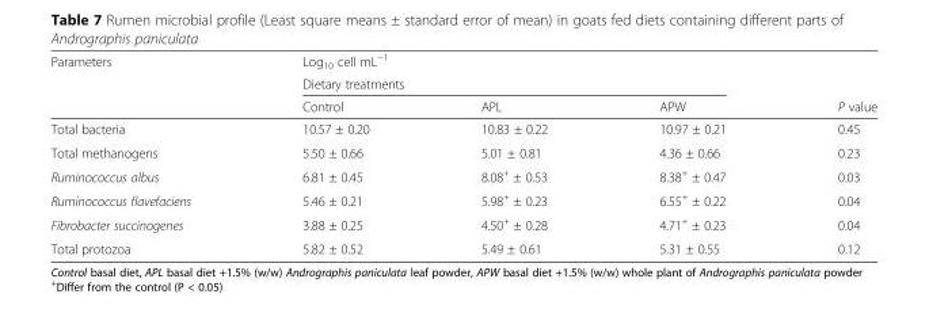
<table><thead><tr><td rowspan="3">Parameters</td><td rowspan="2" colspan="3">Log<sub>10</sub> cell mL<sup>−1</sup> Dietary treatments</td><td rowspan="3">P value</td></tr><tr></tr><tr><td>Control</td><td>APL</td><td>APW</td></tr></thead><tbody><tr><td>Total bacteria</td><td>10.57 ± 0.20</td><td>10.83 ± 0.22</td><td>10.97 ± 0.21</td><td>0.45</td></tr><tr><td>Total methanogens</td><td>5.50 ± 0.66</td><td>5.01 ± 0.81</td><td>4.36 ± 0.66</td><td>0.23</td></tr><tr><td>Ruminococcus albus</td><td>6.81 ± 0.45</td><td>8.08<sup>+</sup> ± 0.53</td><td>8.38<sup>+</sup> ± 0.47</td><td>0.03</td></tr><tr><td>Ruminococcus flavefaciens</td><td>5.46 ± 0.21</td><td>5.98<sup>+</sup> ± 0.23</td><td>6.55<sup>+</sup> ± 0.22</td><td>0.04</td></tr><tr><td>Fibrobacter succinogenes</td><td>3.88 ± 0.25</td><td>4.50<sup>+</sup> ± 0.28</td><td>4.71<sup>+</sup> ± 0.23</td><td>0.04</td></tr><tr><td>Total protozoa</td><td>5.82 ± 0.52</td><td>5.49 ± 0.61</td><td>5.31 ± 0.55</td><td>0.12</td></tr></tbody></table>